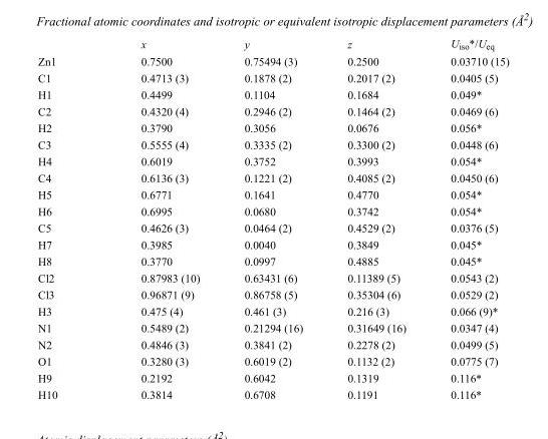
<table><thead><tr><td></td><td>x</td><td>y</td><td>z</td><td>U<sub>iso</sub>*/U<sub>eq</sub></td></tr></thead><tbody><tr><td>Zn1</td><td>0.7500</td><td>0.75494 (3)</td><td>0.2500</td><td>0.03710 (15)</td></tr><tr><td>C1</td><td>0.4713 (3)</td><td>0.1878 (2)</td><td>0.2017 (2)</td><td>0.0405 (5)</td></tr><tr><td>H1</td><td>0.4499</td><td>0.1104</td><td>0.1684</td><td>0.049*</td></tr><tr><td>C2</td><td>0.4320 (4)</td><td>0.2946 (2)</td><td>0.1464 (2)</td><td>0.0469 (6)</td></tr><tr><td>H2</td><td>0.3790</td><td>0.3056</td><td>0.0676</td><td>0.056*</td></tr><tr><td>C3</td><td>0.5555 (4)</td><td>0.3335 (2)</td><td>0.3300 (2)</td><td>0.0448 (6)</td></tr><tr><td>H4</td><td>0.6019</td><td>0.3752</td><td>0.3993</td><td>0.054*</td></tr><tr><td>C4</td><td>0.6136 (3)</td><td>0.1221 (2)</td><td>0.4085 (2)</td><td>0.0450 (6)</td></tr><tr><td>H5</td><td>0.6771</td><td>0.1641</td><td>0.4770</td><td>0.054*</td></tr><tr><td>H6</td><td>0.6995</td><td>0.0680</td><td>0.3742</td><td>0.054*</td></tr><tr><td>C5</td><td>0.4626 (3)</td><td>0.0464 (2)</td><td>0.4529 (2)</td><td>0.0376 (5)</td></tr><tr><td>H7</td><td>0.3985</td><td>0.0040</td><td>0.3849</td><td>0.045*</td></tr><tr><td>H8</td><td>0.3770</td><td>0.0997</td><td>0.4885</td><td>0.045*</td></tr><tr><td>Cl2</td><td>0.87983 (10)</td><td>0.63431 (6)</td><td>0.11389 (5)</td><td>0.0543 (2)</td></tr><tr><td>Cl3</td><td>0.96871 (9)</td><td>0.86758 (5)</td><td>0.35304 (6)</td><td>0.0529 (2)</td></tr><tr><td>H3</td><td>0.475 (4)</td><td>0.461 (3)</td><td>0.216 (3)</td><td>0.066 (9)*</td></tr><tr><td>N1</td><td>0.5489 (2)</td><td>0.21294 (16)</td><td>0.31649 (16)</td><td>0.0347 (4)</td></tr><tr><td>N2</td><td>0.4846 (3)</td><td>0.3841 (2)</td><td>0.2278 (2)</td><td>0.0499 (5)</td></tr><tr><td>O1</td><td>0.3280 (3)</td><td>0.6019 (2)</td><td>0.1132 (2)</td><td>0.0775 (7)</td></tr><tr><td>H9</td><td>0.2192</td><td>0.6042</td><td>0.1319</td><td>0.116*</td></tr><tr><td>H10</td><td>0.3814</td><td>0.6708</td><td>0.1191</td><td>0.116*</td></tr></tbody></table>